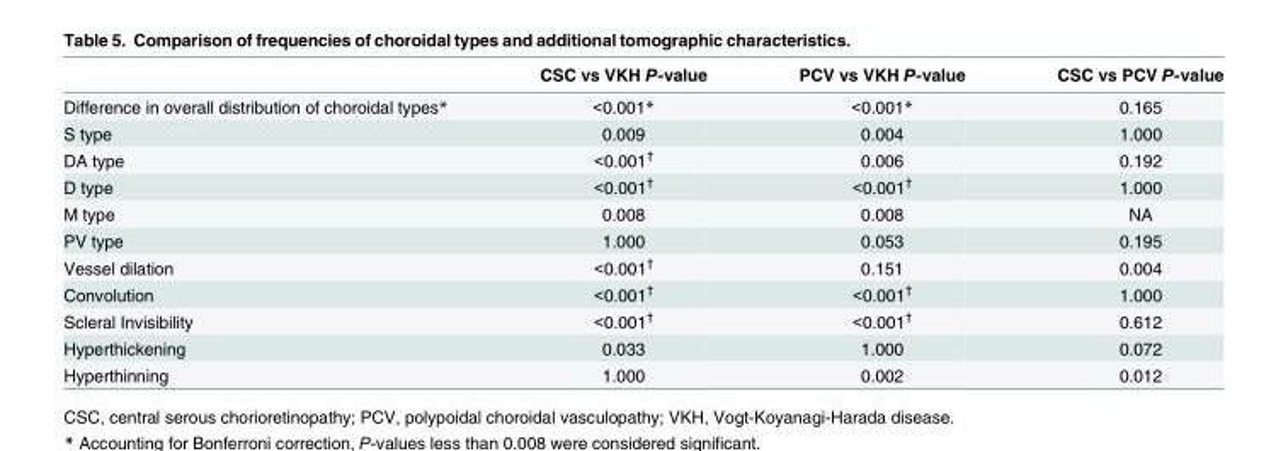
<table><thead><tr><td></td><td>CSC vs VKH P-value</td><td>PCV vs VKH P-value</td><td>CSC vs PCV P-value</td></tr></thead><tbody><tr><td>Difference in overall distribution of choroidal types*</td><td>&lt;0.001*</td><td>&lt;0.001*</td><td>0.165</td></tr><tr><td>S type</td><td>0.009</td><td>0.004</td><td>1.000</td></tr><tr><td>DA type</td><td>&lt;0.001<sup>†</sup></td><td>0.006</td><td>0.192</td></tr><tr><td>D type</td><td>&lt;0.001<sup>†</sup></td><td>&lt;0.001<sup>†</sup></td><td>1.000</td></tr><tr><td>M type</td><td>0.008</td><td>0.008</td><td>NA</td></tr><tr><td>PV type</td><td>1.000</td><td>0.053</td><td>0.195</td></tr><tr><td>Vessel dilation</td><td>&lt;0.001<sup>†</sup></td><td>0.151</td><td>0.004</td></tr><tr><td>Convolution</td><td>&lt;0.001<sup>†</sup></td><td>&lt;0.001<sup>†</sup></td><td>1.000</td></tr><tr><td>Scleral Invisibility</td><td>&lt;0.001<sup>†</sup></td><td>&lt;0.001<sup>†</sup></td><td>0.612</td></tr><tr><td>Hyperthickening</td><td>0.033</td><td>1.000</td><td>0.072</td></tr><tr><td>Hyperthinning</td><td>1.000</td><td>0.002</td><td>0.012</td></tr></tbody></table>